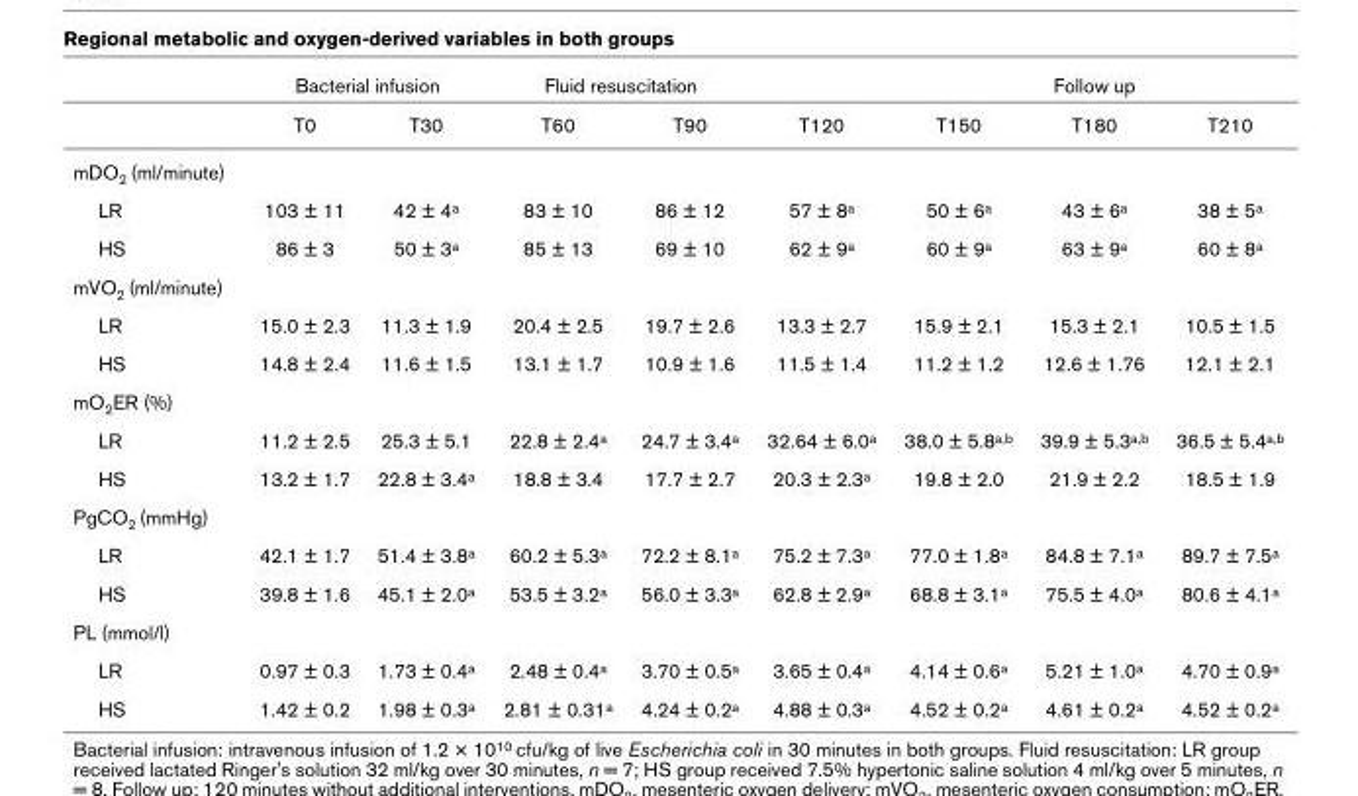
<table><thead><tr><td rowspan="2"></td><td colspan="2">Bacterial infusion</td><td colspan="2">Fluid resuscitation</td><td rowspan="2">T120</td><td colspan="3">Follow up</td></tr><tr><td>T0</td><td>T30</td><td>T60</td><td>T90</td><td>T150</td><td>T180</td><td>T210</td></tr></thead><tbody><tr><td colspan="9">mDO2 (ml/minute)</td></tr><tr><td>LR</td><td>103 ± 11</td><td>42 ± 4a</td><td>83 ± 10</td><td>86 ± 12</td><td>57 ± 8a</td><td>50 ± 6a</td><td>43 ± 6a</td><td>38 ± 5a</td></tr><tr><td>HS</td><td>86 ± 3</td><td>50 ± 3a</td><td>85 ± 13</td><td>69 ± 10</td><td>62 ± 9a</td><td>60 ± 9a</td><td>63 ± 9a</td><td>60 ± 8a</td></tr><tr><td colspan="9">mVO2 (ml/minute)</td></tr><tr><td>LR</td><td>15.0 ± 2.3</td><td>11.3 ± 1.9</td><td>20.4 ± 2.5</td><td>19.7 ± 2.6</td><td>13.3 ± 2.7</td><td>15.9 ± 2.1</td><td>15.3 ± 2.1</td><td>10.5 ± 1.5</td></tr><tr><td>HS</td><td>14.8 ± 2.4</td><td>11.6 ± 1.5</td><td>13.1 ± 1.7</td><td>10.9 ± 1.6</td><td>11.5 ± 1.4</td><td>11.2 ± 1.2</td><td>12.6 ± 1.76</td><td>12.1 ± 2.1</td></tr><tr><td colspan="9">mO2ER (%)</td></tr><tr><td>LR</td><td>11.2 ± 2.5</td><td>25.3 ± 5.1</td><td>22.8 ± 2.4a</td><td>24.7 ± 3.4a</td><td>32.64 ± 6.0a</td><td>38.0 ± 5.8a,b</td><td>39.9 ± 5.3a,b</td><td>36.5 ± 5.4a,b</td></tr><tr><td>HS</td><td>13.2 ± 1.7</td><td>22.8 ± 3.4a</td><td>18.8 ± 3.4</td><td>17.7 ± 2.7</td><td>20.3 ± 2.3a</td><td>19.8 ± 2.0</td><td>21.9 ± 2.2</td><td>18.5 ± 1.9</td></tr><tr><td colspan="9">PgCO2 (mmHg)</td></tr><tr><td>LR</td><td>42.1 ± 1.7</td><td>51.4 ± 3.8a</td><td>60.2 ± 5.3a</td><td>72.2 ± 8.1a</td><td>75.2 ± 7.3a</td><td>77.0 ± 1.8a</td><td>84.8 ± 7.1a</td><td>89.7 ± 7.5a</td></tr><tr><td>HS</td><td>39.8 ± 1.6</td><td>45.1 ± 2.0a</td><td>53.5 ± 3.2a</td><td>56.0 ± 3.3a</td><td>62.8 ± 2.9a</td><td>68.8 ± 3.1a</td><td>75.5 ± 4.0a</td><td>80.6 ± 4.1a</td></tr><tr><td colspan="9">PL (mmol/l)</td></tr><tr><td>LR</td><td>0.97 ± 0.3</td><td>1.73 ± 0.4a</td><td>2.48 ± 0.4a</td><td>3.70 ± 0.5a</td><td>3.65 ± 0.4a</td><td>4.14 ± 0.6a</td><td>5.21 ± 1.0a</td><td>4.70 ± 0.9a</td></tr><tr><td>HS</td><td>1.42 ± 0.2</td><td>1.98 ± 0.3a</td><td>2.81 ± 0.31a</td><td>4.24 ± 0.2a</td><td>4.88 ± 0.3a</td><td>4.52 ± 0.2a</td><td>4.61 ± 0.2a</td><td>4.52 ± 0.2a</td></tr></tbody></table>